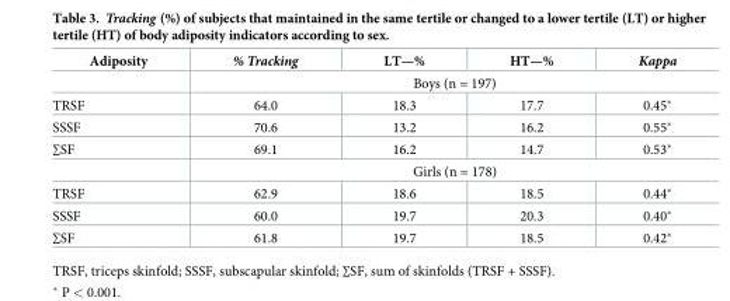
<table><thead><tr><td>Adiposity</td><td>% Tracking</td><td>LT—%</td><td>HT—%</td><td>Kappa</td></tr></thead><tbody><tr><td></td><td colspan="4">Boys (n = 197)</td></tr><tr><td>TRSF</td><td>64.0</td><td>18.3</td><td>17.7</td><td>0.45*</td></tr><tr><td>SSSF</td><td>70.6</td><td>13.2</td><td>16.2</td><td>0.55*</td></tr><tr><td rowspan="2">∑SF</td><td>69.1</td><td>16.2</td><td>14.7</td><td>0.53*</td></tr><tr><td colspan="4">Girls (n = 178)</td></tr><tr><td>TRSF</td><td>62.9</td><td>18.6</td><td>18.5</td><td>0.44*</td></tr><tr><td>SSSF</td><td>60.0</td><td>19.7</td><td>20.3</td><td>0.40*</td></tr><tr><td>∑SF</td><td>61.8</td><td>19.7</td><td>18.5</td><td>0.42*</td></tr></tbody></table>